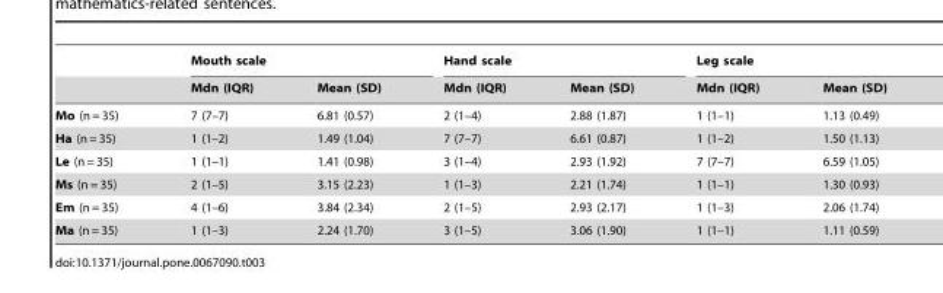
<table><thead><tr><td rowspan="2"></td><td colspan="2">Mouth scale</td><td colspan="2">Hand scale</td><td colspan="2">Leg scale</td></tr><tr><td>Mdn (IQR)</td><td>Mean (SD)</td><td>Mdn (IQR)</td><td>Mean (SD)</td><td>Mdn (IQR)</td><td>Mean (SD)</td></tr></thead><tbody><tr><td>Mo (n = 35)</td><td>7 (7–7)</td><td>6.81 (0.57)</td><td>2 (1–4)</td><td>2.88 (1.87)</td><td>1 (1–1)</td><td>1.13 (0.49)</td></tr><tr><td>Ha (n = 35)</td><td>1 (1–2)</td><td>1.49 (1.04)</td><td>7 (7–7)</td><td>6.61 (0.87)</td><td>1 (1–2)</td><td>1.50 (1.13)</td></tr><tr><td>Le (n = 35)</td><td>1 (1–1)</td><td>1.41 (0.98)</td><td>3 (1–4)</td><td>2.93 (1.92)</td><td>7 (7–7)</td><td>6.59 (1.05)</td></tr><tr><td>Ms (n = 35)</td><td>2 (1–5)</td><td>3.15 (2.23)</td><td>1 (1–3)</td><td>2.21 (1.74)</td><td>1 (1–1)</td><td>1.30 (0.93)</td></tr><tr><td>Em (n = 35)</td><td>4 (1–6)</td><td>3.84 (2.34)</td><td>2 (1–5)</td><td>2.93 (2.17)</td><td>1 (1–3)</td><td>2.06 (1.74)</td></tr><tr><td>Ma (n = 35)</td><td>1 (1–3)</td><td>2.24 (1.70)</td><td>3 (1–5)</td><td>3.06 (1.90)</td><td>1 (1–1)</td><td>1.11 (0.59)</td></tr></tbody></table>